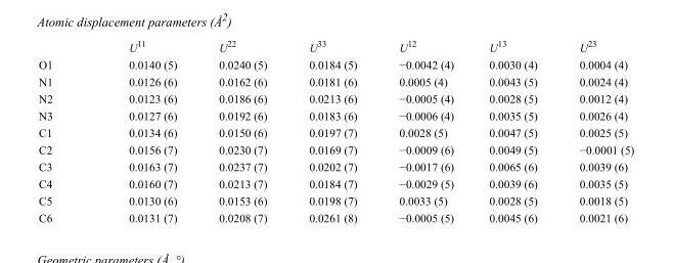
<table><thead><tr><td></td><td>U<sup>11</sup></td><td>U<sup>22</sup></td><td>U<sup>33</sup></td><td>U<sup>12</sup></td><td>U<sup>13</sup></td><td>U<sup>23</sup></td></tr></thead><tbody><tr><td>O1</td><td>0.0140 (5)</td><td>0.0240 (5)</td><td>0.0184 (5)</td><td>−0.0042 (4)</td><td>0.0030 (4)</td><td>0.0004 (4)</td></tr><tr><td>N1</td><td>0.0126 (6)</td><td>0.0162 (6)</td><td>0.0181 (6)</td><td>0.0005 (4)</td><td>0.0043 (5)</td><td>0.0024 (4)</td></tr><tr><td>N2</td><td>0.0123 (6)</td><td>0.0186 (6)</td><td>0.0213 (6)</td><td>−0.0005 (4)</td><td>0.0028 (5)</td><td>0.0012 (4)</td></tr><tr><td>N3</td><td>0.0127 (6)</td><td>0.0192 (6)</td><td>0.0183 (6)</td><td>−0.0006 (4)</td><td>0.0035 (5)</td><td>0.0026 (4)</td></tr><tr><td>C1</td><td>0.0134 (6)</td><td>0.0150 (6)</td><td>0.0197 (7)</td><td>0.0028 (5)</td><td>0.0047 (5)</td><td>0.0025 (5)</td></tr><tr><td>C2</td><td>0.0156 (7)</td><td>0.0230 (7)</td><td>0.0169 (7)</td><td>−0.0009 (6)</td><td>0.0049 (5)</td><td>−0.0001 (5)</td></tr><tr><td>C3</td><td>0.0163 (7)</td><td>0.0237 (7)</td><td>0.0202 (7)</td><td>−0.0017 (6)</td><td>0.0065 (6)</td><td>0.0039 (6)</td></tr><tr><td>C4</td><td>0.0160 (7)</td><td>0.0213 (7)</td><td>0.0184 (7)</td><td>−0.0029 (5)</td><td>0.0039 (6)</td><td>0.0035 (5)</td></tr><tr><td>C5</td><td>0.0130 (6)</td><td>0.0153 (6)</td><td>0.0198 (7)</td><td>0.0033 (5)</td><td>0.0028 (5)</td><td>0.0018 (5)</td></tr><tr><td>C6</td><td>0.0131 (7)</td><td>0.0208 (7)</td><td>0.0261 (8)</td><td>−0.0005 (5)</td><td>0.0045 (6)</td><td>0.0021 (6)</td></tr></tbody></table>